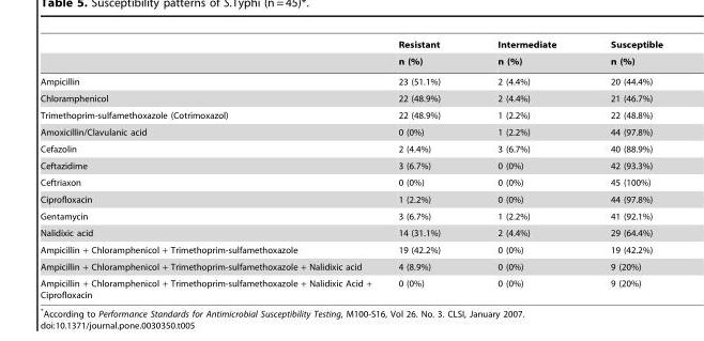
<table><thead><tr><td rowspan="2"></td><td rowspan="2">Resistant n (%)</td><td rowspan="2">Intermediate n (%)</td><td rowspan="2">Susceptible n (%)</td></tr><tr></tr></thead><tbody><tr><td>Ampicillin</td><td>23 (51.1%)</td><td>2 (4.4%)</td><td>20 (44.4%)</td></tr><tr><td>Chloramphenicol</td><td>22 (48.9%)</td><td>2 (4.4%)</td><td>21 (46.7%)</td></tr><tr><td>Trimethoprim-sulfamethoxazole (Cotrimoxazol)</td><td>22 (48.9%)</td><td>1 (2.2%)</td><td>22 (48.8%)</td></tr><tr><td>Amoxicillin/Clavulanic acid</td><td>0 (0%)</td><td>1 (2.2%)</td><td>44 (97.8%)</td></tr><tr><td>Cefazolin</td><td>2 (4.4%)</td><td>3 (6.7%)</td><td>40 (88.9%)</td></tr><tr><td>Ceftazidime</td><td>3 (6.7%)</td><td>0 (0%)</td><td>42 (93.3%)</td></tr><tr><td>Ceftriaxon</td><td>0 (0%)</td><td>0 (0%)</td><td>45 (100%)</td></tr><tr><td>Ciprofloxacin</td><td>1 (2.2%)</td><td>0 (0%)</td><td>44 (97.8%)</td></tr><tr><td>Gentamycin</td><td>3 (6.7%)</td><td>1 (2.2%)</td><td>41 (92.1%)</td></tr><tr><td>Nalidixic acid</td><td>14 (31.1%)</td><td>2 (4.4%)</td><td>29 (64.4%)</td></tr><tr><td>Ampicillin + Chloramphenicol + Trimethoprim-sulfamethoxazole</td><td>19 (42.2%)</td><td>0 (0%)</td><td>19 (42.2%)</td></tr><tr><td>Ampicillin + Chloramphenicol + Trimethoprim-sulfamethoxazole + Nalidixic acid</td><td>4 (8.9%)</td><td>0 (0%)</td><td>9 (20%)</td></tr><tr><td>Ampicillin + Chloramphenicol + Trimethoprim-sulfamethoxazole + Nalidixic Acid + Ciprofloxacin</td><td>0 (0%)</td><td>0 (0%)</td><td>9 (20%)</td></tr></tbody></table>